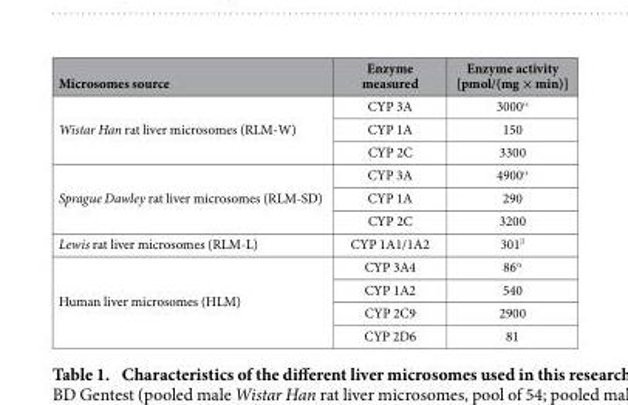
<table><thead><tr><td>Microsomes source</td><td>Enzyme measured</td><td>Enzyme activity [pmol/(mg × min)]</td></tr></thead><tbody><tr><td rowspan="3">Wistar Han rat liver microsomes (RLM-W)</td><td>CYP 3A</td><td>3000α</td></tr><tr><td>CYP 1A</td><td>150</td></tr><tr><td>CYP 2C</td><td>3300</td></tr><tr><td rowspan="3">Sprague Dawley rat liver microsomes (RLM-SD)</td><td>CYP 3A</td><td>4900α</td></tr><tr><td>CYP 1A</td><td>290</td></tr><tr><td>CYP 2C</td><td>3200</td></tr><tr><td>Lewis rat liver microsomes (RLM-L)</td><td>CYP 1A1/1A2</td><td>301β</td></tr><tr><td rowspan="4">Human liver microsomes (HLM)</td><td>CYP 3A4</td><td>86α</td></tr><tr><td>CYP 1A2</td><td>540</td></tr><tr><td>CYP 2C9</td><td>2900</td></tr><tr><td>CYP 2D6</td><td>81</td></tr></tbody></table>